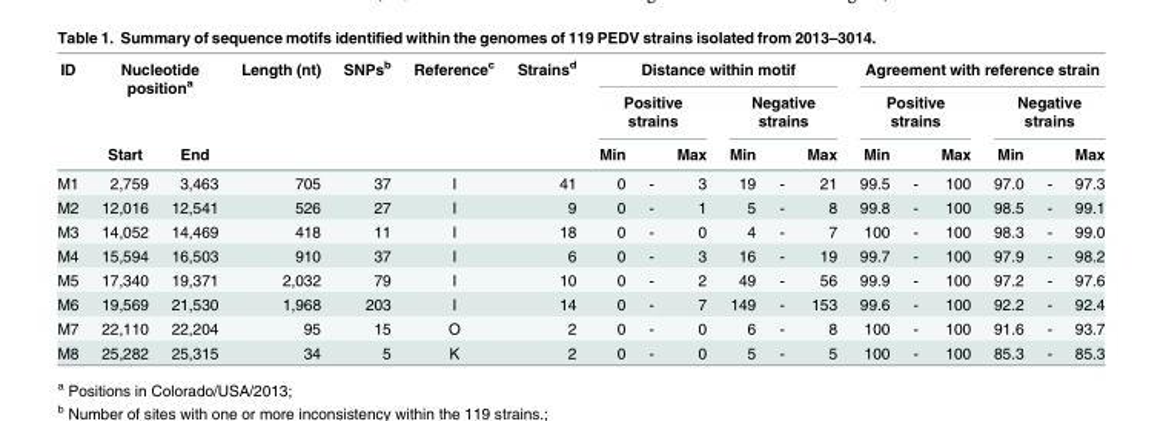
<table><thead><tr><td rowspan="3">ID</td><td rowspan="2" colspan="2">Nucleotide position<sup>a</sup></td><td rowspan="3">Length (nt)</td><td rowspan="3">SNPs<sup>b</sup></td><td rowspan="3">Reference<sup>c</sup></td><td rowspan="3">Strains<sup>d</sup></td><td colspan="6">Distance within motif</td><td colspan="6">Agreement with reference strain</td></tr><tr><td colspan="3">Positive strains</td><td colspan="3">Negative strains</td><td colspan="3">Positive strains</td><td colspan="3">Negative strains</td></tr><tr><td>Start</td><td>End</td><td>Min</td><td></td><td>Max</td><td>Min</td><td></td><td>Max</td><td>Min</td><td></td><td>Max</td><td>Min</td><td></td><td>Max</td></tr></thead><tbody><tr><td>M1</td><td>2,759</td><td>3,463</td><td>705</td><td>37</td><td>I</td><td>41</td><td>0</td><td>-</td><td>3</td><td>19</td><td>-</td><td>21</td><td>99.5</td><td>-</td><td>100</td><td>97.0</td><td>-</td><td>97.3</td></tr><tr><td>M2</td><td>12,016</td><td>12,541</td><td>526</td><td>27</td><td>I</td><td>9</td><td>0</td><td>-</td><td>1</td><td>5</td><td>-</td><td>8</td><td>99.8</td><td>-</td><td>100</td><td>98.5</td><td>-</td><td>99.1</td></tr><tr><td>M3</td><td>14,052</td><td>14,469</td><td>418</td><td>11</td><td>I</td><td>18</td><td>0</td><td>-</td><td>0</td><td>4</td><td>-</td><td>7</td><td>100</td><td>-</td><td>100</td><td>98.3</td><td>-</td><td>99.0</td></tr><tr><td>M4</td><td>15,594</td><td>16,503</td><td>910</td><td>37</td><td>I</td><td>6</td><td>0</td><td>-</td><td>3</td><td>16</td><td>-</td><td>19</td><td>99.7</td><td>-</td><td>100</td><td>97.9</td><td>-</td><td>98.2</td></tr><tr><td>M5</td><td>17,340</td><td>19,371</td><td>2,032</td><td>79</td><td>I</td><td>10</td><td>0</td><td>-</td><td>2</td><td>49</td><td>-</td><td>56</td><td>99.9</td><td>-</td><td>100</td><td>97.2</td><td>-</td><td>97.6</td></tr><tr><td>M6</td><td>19,569</td><td>21,530</td><td>1,968</td><td>203</td><td>I</td><td>14</td><td>0</td><td>-</td><td>7</td><td>149</td><td>-</td><td>153</td><td>99.6</td><td>-</td><td>100</td><td>92.2</td><td>-</td><td>92.4</td></tr><tr><td>M7</td><td>22,110</td><td>22,204</td><td>95</td><td>15</td><td>O</td><td>2</td><td>0</td><td>-</td><td>0</td><td>6</td><td>-</td><td>8</td><td>100</td><td>-</td><td>100</td><td>91.6</td><td>-</td><td>93.7</td></tr><tr><td>M8</td><td>25,282</td><td>25,315</td><td>34</td><td>5</td><td>K</td><td>2</td><td>0</td><td>-</td><td>0</td><td>5</td><td>-</td><td>5</td><td>100</td><td>-</td><td>100</td><td>85.3</td><td>-</td><td>85.3</td></tr></tbody></table>